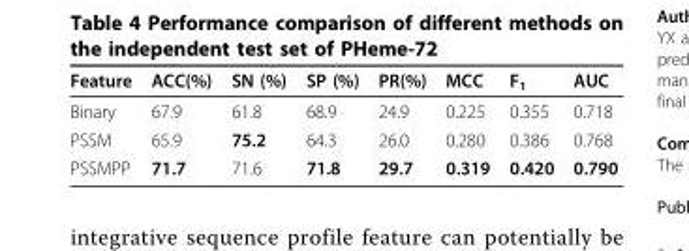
<table><thead><tr><td>Feature</td><td>ACC(%)</td><td>SN (%)</td><td>SP (%)</td><td>PR(%)</td><td>MCC</td><td>F<sub>1</sub></td><td>AUC</td></tr></thead><tbody><tr><td>Binary</td><td>67.9</td><td>61.8</td><td>68.9</td><td>24.9</td><td>0.225</td><td>0.355</td><td>0.718</td></tr><tr><td>PSSM</td><td>65.9</td><td>75.2</td><td>64.3</td><td>26.0</td><td>0.280</td><td>0.386</td><td>0.768</td></tr><tr><td>PSSMPP</td><td>71.7</td><td>71.6</td><td>71.8</td><td>29.7</td><td>0.319</td><td>0.420</td><td>0.790</td></tr></tbody></table>